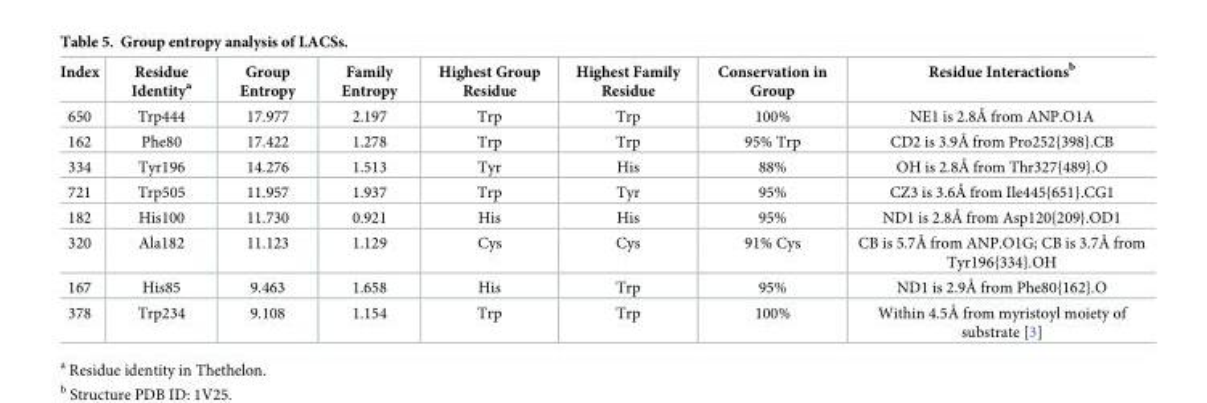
<table><thead><tr><td>Index</td><td>Residue Identity<sup>a</sup></td><td>Group Entropy</td><td>Family Entropy</td><td>Highest Group Residue</td><td>Highest Family Residue</td><td>Conservation in Group</td><td>Residue Interactions<sup>b</sup></td></tr></thead><tbody><tr><td>650</td><td>Trp444</td><td>17.977</td><td>2.197</td><td>Trp</td><td>Trp</td><td>100%</td><td>NE1 is 2.8Å from ANP.O1A</td></tr><tr><td>162</td><td>Phe80</td><td>17.422</td><td>1.278</td><td>Trp</td><td>Trp</td><td>95% Trp</td><td>CD2 is 3.9Å from Pro252{398}.CB</td></tr><tr><td>334</td><td>Tyr196</td><td>14.276</td><td>1.513</td><td>Tyr</td><td>His</td><td>88%</td><td>OH is 2.8Å from Thr327{489}.O</td></tr><tr><td>721</td><td>Trp505</td><td>11.957</td><td>1.937</td><td>Trp</td><td>Tyr</td><td>95%</td><td>CZ3 is 3.6Å from Ile445{651}.CG1</td></tr><tr><td>182</td><td>His100</td><td>11.730</td><td>0.921</td><td>His</td><td>His</td><td>95%</td><td>ND1 is 2.8Å from Asp120{209}.OD1</td></tr><tr><td>320</td><td>Ala182</td><td>11.123</td><td>1.129</td><td>Cys</td><td>Cys</td><td>91% Cys</td><td>CB is 5.7Å from ANP.O1G; CB is 3.7Å from Tyr196{334}.OH</td></tr><tr><td>167</td><td>His85</td><td>9.463</td><td>1.658</td><td>His</td><td>Trp</td><td>95%</td><td>ND1 is 2.9Å from Phe80{162}.O</td></tr><tr><td>378</td><td>Trp234</td><td>9.108</td><td>1.154</td><td>Trp</td><td>Trp</td><td>100%</td><td>Within 4.5Å from myristoyl moiety of substrate [3]</td></tr></tbody></table>